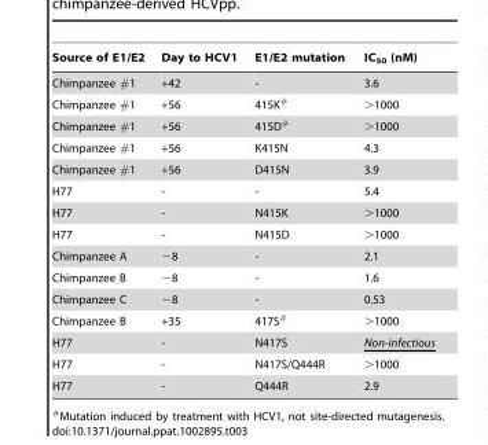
<table><thead><tr><td>Source of E1/E2</td><td>Day to HCV1</td><td>E1/E2 mutation</td><td>IC<sub>50</sub> (nM)</td></tr></thead><tbody><tr><td>Chimpanzee #1</td><td>+42</td><td>-</td><td>3.6</td></tr><tr><td>Chimpanzee #1</td><td>+56</td><td>415K#</td><td>&gt;1000</td></tr><tr><td>Chimpanzee #1</td><td>+56</td><td>415D#</td><td>&gt;1000</td></tr><tr><td>Chimpanzee #1</td><td>+56</td><td>K415N</td><td>4.3</td></tr><tr><td>Chimpanzee #1</td><td>+56</td><td>D415N</td><td>3.9</td></tr><tr><td>H77</td><td>-</td><td>-</td><td>5.4</td></tr><tr><td>H77</td><td>-</td><td>N415K</td><td>&gt;1000</td></tr><tr><td>H77</td><td>-</td><td>N415D</td><td>&gt;1000</td></tr><tr><td>Chimpanzee A</td><td>−8</td><td>-</td><td>2.1</td></tr><tr><td>Chimpanzee B</td><td>−8</td><td>-</td><td>1.6</td></tr><tr><td>Chimpanzee C</td><td>−8</td><td>-</td><td>0.53</td></tr><tr><td>Chimpanzee B</td><td>+35</td><td>417S#</td><td>&gt;1000</td></tr><tr><td>H77</td><td>-</td><td>N417S</td><td>Non-infectious</td></tr><tr><td>H77</td><td>-</td><td>N417S/Q444R</td><td>&gt;1000</td></tr><tr><td>H77</td><td>-</td><td>Q444R</td><td>2.9</td></tr></tbody></table>